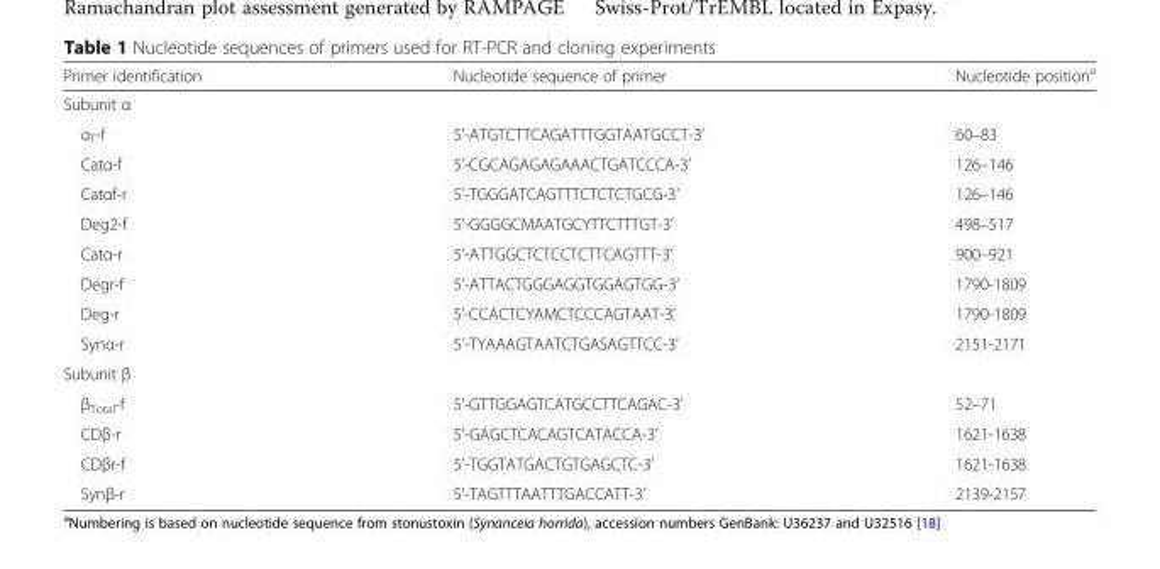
<table><thead><tr><td>Primer identification</td><td>Nucleotide sequence of primer</td><td>Nucleotide position<sup>a</sup></td></tr></thead><tbody><tr><td colspan="3">Subunit α</td></tr><tr><td>α<sub>T</sub>-f</td><td>5’-ATGTCTTCAGATTTGGTAATGCCT-3’</td><td>60–83</td></tr><tr><td>Catα-f</td><td>5’-CGCAGAGAGAAACTGATCCCA-3’</td><td>126–146</td></tr><tr><td>Catαf-r</td><td>5’-TGGGATCAGTTTCTCTCTGCG-3’</td><td>126–146</td></tr><tr><td>Deg2-f</td><td>5’-GGGGCMAATGCYTTCTTTGT-3’</td><td>498–517</td></tr><tr><td>Catα-r</td><td>5’-ATTGGCTCTCCTCTTCAGTTT-3’</td><td>900–921</td></tr><tr><td>Degr-f</td><td>5’-ATTACTGGGAGGTGGAGTGG-3’</td><td>1790-1809</td></tr><tr><td>Deg-r</td><td>5’-CCACTCYAMCTCCCAGTAAT-3’</td><td>1790-1809</td></tr><tr><td>Synα-r</td><td>5’-TYAAAGTAATCTGASAGTTCC-3’</td><td>2151-2171</td></tr><tr><td colspan="3">Subunit β</td></tr><tr><td>β<sub>Total</sub>-f</td><td>5’-GTTGGAGTCATGCCTTCAGAC-3’</td><td>52–71</td></tr><tr><td>CDβ-r</td><td>5’-GAGCTCACAGTCATACCA-3’</td><td>1621-1638</td></tr><tr><td>CDβr-f</td><td>5’-TGGTATGACTGTGAGCTC-3’</td><td>1621-1638</td></tr><tr><td>Synβ-r</td><td>5’-TAGTTTAATTTGACCATT-3’</td><td>2139-2157</td></tr></tbody></table>